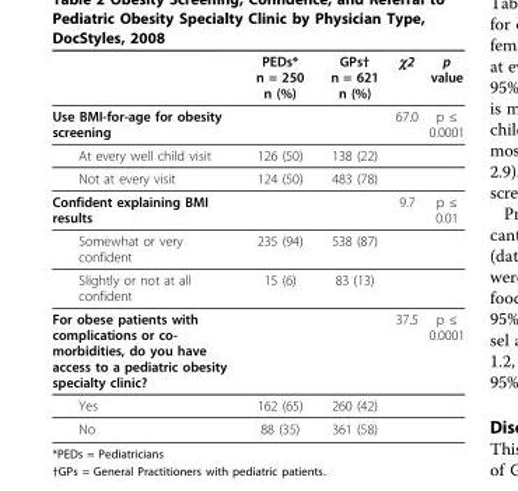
<table><thead><tr><td></td><td>PEDs* n = 250 n (%)</td><td>GPs† n = 621 n (%)</td><td>χ2</td><td>p value</td></tr></thead><tbody><tr><td>Use BMI-for-age for obesity screening</td><td></td><td></td><td>67.0</td><td>p ≤ 0.0001</td></tr><tr><td>At every well child visit</td><td>126 (50)</td><td>138 (22)</td><td></td><td></td></tr><tr><td>Not at every visit</td><td>124 (50)</td><td>483 (78)</td><td></td><td></td></tr><tr><td>Confident explaining BMI results</td><td></td><td></td><td>9.7</td><td>p ≤ 0.01</td></tr><tr><td>Somewhat or very confident</td><td>235 (94)</td><td>538 (87)</td><td></td><td></td></tr><tr><td>Slightly or not at all confident</td><td>15 (6)</td><td>83 (13)</td><td></td><td></td></tr><tr><td>For obese patients with complications or co- morbidities, do you have access to a pediatric obesity specialty clinic?</td><td></td><td></td><td>37.5</td><td>p ≤ 0.0001</td></tr><tr><td>Yes</td><td>162 (65)</td><td>260 (42)</td><td></td><td></td></tr><tr><td>No</td><td>88 (35)</td><td>361 (58)</td><td></td><td></td></tr></tbody></table>